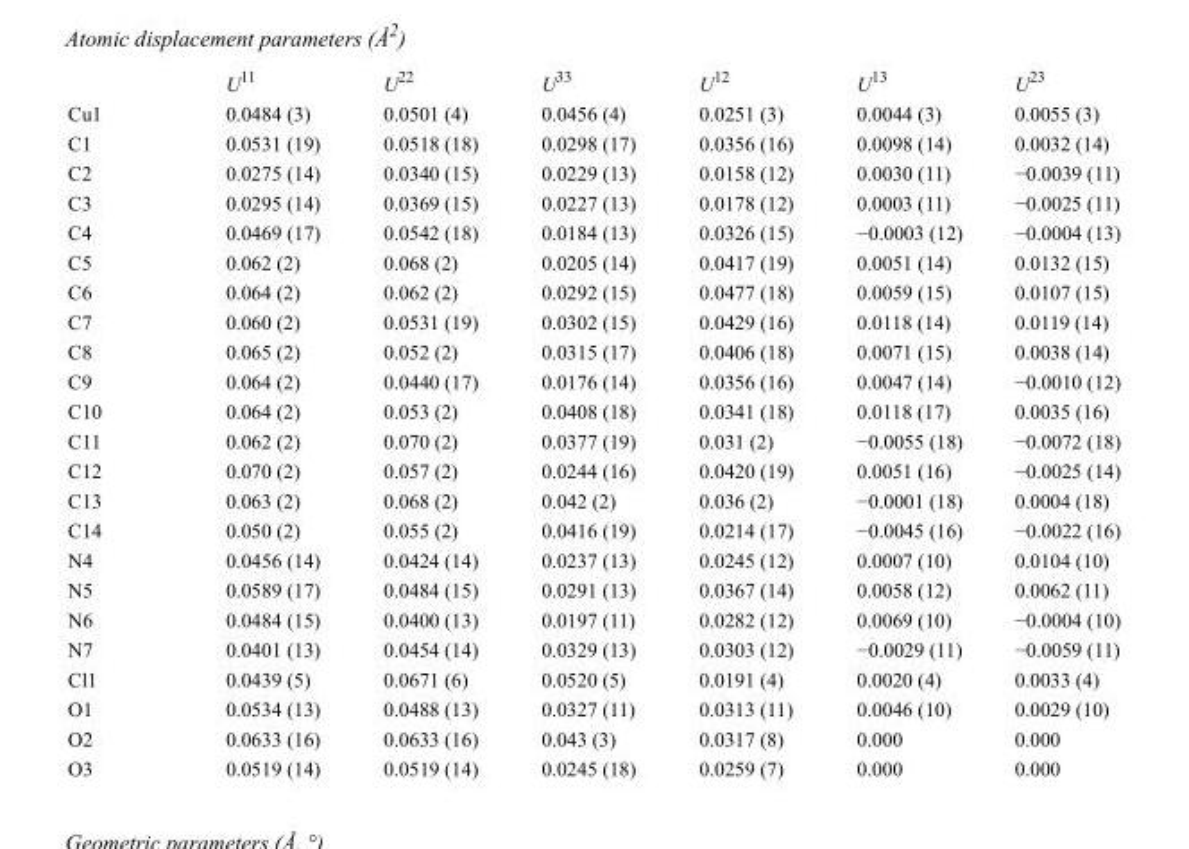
<table><thead><tr><td></td><td>U<sup>11</sup></td><td>U<sup>22</sup></td><td>U<sup>33</sup></td><td>U<sup>12</sup></td><td>U<sup>13</sup></td><td>U<sup>23</sup></td></tr></thead><tbody><tr><td>Cu1</td><td>0.0484 (3)</td><td>0.0501 (4)</td><td>0.0456 (4)</td><td>0.0251 (3)</td><td>0.0044 (3)</td><td>0.0055 (3)</td></tr><tr><td>C1</td><td>0.0531 (19)</td><td>0.0518 (18)</td><td>0.0298 (17)</td><td>0.0356 (16)</td><td>0.0098 (14)</td><td>0.0032 (14)</td></tr><tr><td>C2</td><td>0.0275 (14)</td><td>0.0340 (15)</td><td>0.0229 (13)</td><td>0.0158 (12)</td><td>0.0030 (11)</td><td>−0.0039 (11)</td></tr><tr><td>C3</td><td>0.0295 (14)</td><td>0.0369 (15)</td><td>0.0227 (13)</td><td>0.0178 (12)</td><td>0.0003 (11)</td><td>−0.0025 (11)</td></tr><tr><td>C4</td><td>0.0469 (17)</td><td>0.0542 (18)</td><td>0.0184 (13)</td><td>0.0326 (15)</td><td>−0.0003 (12)</td><td>−0.0004 (13)</td></tr><tr><td>C5</td><td>0.062 (2)</td><td>0.068 (2)</td><td>0.0205 (14)</td><td>0.0417 (19)</td><td>0.0051 (14)</td><td>0.0132 (15)</td></tr><tr><td>C6</td><td>0.064 (2)</td><td>0.062 (2)</td><td>0.0292 (15)</td><td>0.0477 (18)</td><td>0.0059 (15)</td><td>0.0107 (15)</td></tr><tr><td>C7</td><td>0.060 (2)</td><td>0.0531 (19)</td><td>0.0302 (15)</td><td>0.0429 (16)</td><td>0.0118 (14)</td><td>0.0119 (14)</td></tr><tr><td>C8</td><td>0.065 (2)</td><td>0.052 (2)</td><td>0.0315 (17)</td><td>0.0406 (18)</td><td>0.0071 (15)</td><td>0.0038 (14)</td></tr><tr><td>C9</td><td>0.064 (2)</td><td>0.0440 (17)</td><td>0.0176 (14)</td><td>0.0356 (16)</td><td>0.0047 (14)</td><td>−0.0010 (12)</td></tr><tr><td>C10</td><td>0.064 (2)</td><td>0.053 (2)</td><td>0.0408 (18)</td><td>0.0341 (18)</td><td>0.0118 (17)</td><td>0.0035 (16)</td></tr><tr><td>C11</td><td>0.062 (2)</td><td>0.070 (2)</td><td>0.0377 (19)</td><td>0.031 (2)</td><td>−0.0055 (18)</td><td>−0.0072 (18)</td></tr><tr><td>C12</td><td>0.070 (2)</td><td>0.057 (2)</td><td>0.0244 (16)</td><td>0.0420 (19)</td><td>0.0051 (16)</td><td>−0.0025 (14)</td></tr><tr><td>C13</td><td>0.063 (2)</td><td>0.068 (2)</td><td>0.042 (2)</td><td>0.036 (2)</td><td>−0.0001 (18)</td><td>0.0004 (18)</td></tr><tr><td>C14</td><td>0.050 (2)</td><td>0.055 (2)</td><td>0.0416 (19)</td><td>0.0214 (17)</td><td>−0.0045 (16)</td><td>−0.0022 (16)</td></tr><tr><td>N4</td><td>0.0456 (14)</td><td>0.0424 (14)</td><td>0.0237 (13)</td><td>0.0245 (12)</td><td>0.0007 (10)</td><td>0.0104 (10)</td></tr><tr><td>N5</td><td>0.0589 (17)</td><td>0.0484 (15)</td><td>0.0291 (13)</td><td>0.0367 (14)</td><td>0.0058 (12)</td><td>0.0062 (11)</td></tr><tr><td>N6</td><td>0.0484 (15)</td><td>0.0400 (13)</td><td>0.0197 (11)</td><td>0.0282 (12)</td><td>0.0069 (10)</td><td>−0.0004 (10)</td></tr><tr><td>N7</td><td>0.0401 (13)</td><td>0.0454 (14)</td><td>0.0329 (13)</td><td>0.0303 (12)</td><td>−0.0029 (11)</td><td>−0.0059 (11)</td></tr><tr><td>Cl1</td><td>0.0439 (5)</td><td>0.0671 (6)</td><td>0.0520 (5)</td><td>0.0191 (4)</td><td>0.0020 (4)</td><td>0.0033 (4)</td></tr><tr><td>O1</td><td>0.0534 (13)</td><td>0.0488 (13)</td><td>0.0327 (11)</td><td>0.0313 (11)</td><td>0.0046 (10)</td><td>0.0029 (10)</td></tr><tr><td>O2</td><td>0.0633 (16)</td><td>0.0633 (16)</td><td>0.043 (3)</td><td>0.0317 (8)</td><td>0.000</td><td>0.000</td></tr><tr><td>O3</td><td>0.0519 (14)</td><td>0.0519 (14)</td><td>0.0245 (18)</td><td>0.0259 (7)</td><td>0.000</td><td>0.000</td></tr></tbody></table>